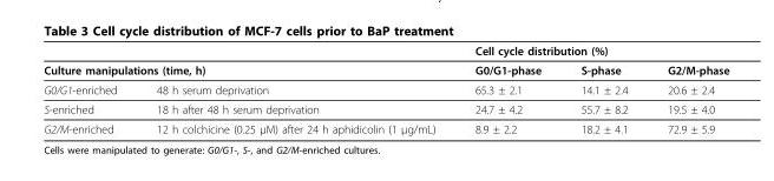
<table><thead><tr><td></td><td></td><td colspan="3">Cell cycle distribution (%)</td></tr><tr><td colspan="2">Culture manipulations (time, h)</td><td>G0/G1-phase</td><td>S-phase</td><td>G2/M-phase</td></tr></thead><tbody><tr><td>G0/G1-enriched</td><td>48 h serum deprivation</td><td>65.3 ± 2.1</td><td>14.1 ± 2.4</td><td>20.6 ± 2.4</td></tr><tr><td>S-enriched</td><td>18 h after 48 h serum deprivation</td><td>24.7 ± 4.2</td><td>55.7 ± 8.2</td><td>19.5 ± 4.0</td></tr><tr><td>G2/M-enriched</td><td>12 h colchicine (0.25 μM) after 24 h aphidicolin (1 μg/mL)</td><td>8.9 ± 2.2</td><td>18.2 ± 4.1</td><td>72.9 ± 5.9</td></tr></tbody></table>